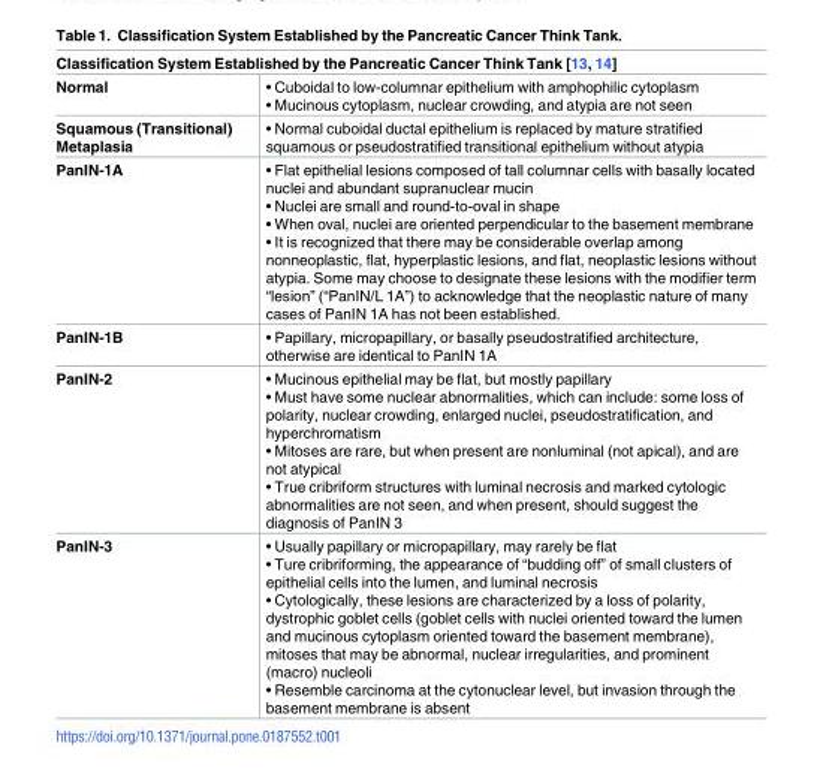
<table><thead><tr><td colspan="2">Classification System Established by the Pancreatic Cancer Think Tank [13, 14]</td></tr><tr><td>Normal</td><td>• Cuboidal to low-columnar epithelium with amphophilic cytoplasm • Mucinous cytoplasm, nuclear crowding, and atypia are not seen</td></tr></thead><tbody><tr><td>Squamous (Transitional) Metaplasia</td><td>• Normal cuboidal ductal epithelium is replaced by mature stratified squamous or pseudostratified transitional epithelium without atypia</td></tr><tr><td>PanIN-1A</td><td>• Flat epithelial lesions composed of tall columnar cells with basally located nuclei and abundant supranuclear mucin • Nuclei are small and round-to-oval in shape • When oval, nuclei are oriented perpendicular to the basement membrane • It is recognized that there may be considerable overlap among nonneoplastic, flat, hyperplastic lesions, and flat, neoplastic lesions without atypia. Some may choose to designate these lesions with the modifier term “lesion” (“PanIN/L 1A”) to acknowledge that the neoplastic nature of many cases of PanIN 1A has not been established.</td></tr><tr><td>PanIN-1B</td><td>• Papillary, micropapillary, or basally pseudostratified architecture, otherwise are identical to PanIN 1A</td></tr><tr><td>PanIN-2</td><td>• Mucinous epithelial may be flat, but mostly papillary • Must have some nuclear abnormalities, which can include: some loss of polarity, nuclear crowding, enlarged nuclei, pseudostratification, and hyperchromatism • Mitoses are rare, but when present are nonluminal (not apical), and are not atypical • True cribriform structures with luminal necrosis and marked cytologic abnormalities are not seen, and when present, should suggest the diagnosis of PanIN 3</td></tr><tr><td>PanIN-3</td><td>• Usually papillary or micropapillary, may rarely be flat • Ture cribriforming, the appearance of “budding off” of small clusters of epithelial cells into the lumen, and luminal necrosis • Cytologically, these lesions are characterized by a loss of polarity, dystrophic goblet cells (goblet cells with nuclei oriented toward the lumen and mucinous cytoplasm oriented toward the basement membrane), mitoses that may be abnormal, nuclear irregularities, and prominent (macro) nucleoli • Resemble carcinoma at the cytonuclear level, but invasion through the basement membrane is absent</td></tr></tbody></table>